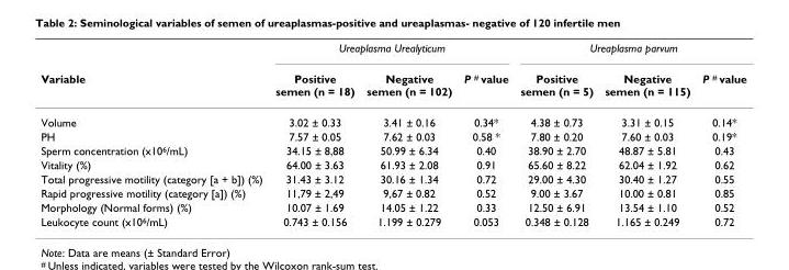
<table><thead><tr><td rowspan="2">Variable</td><td colspan="3">Ureaplasma Urealyticum</td><td colspan="3">Ureaplasma parvum</td></tr><tr><td>Positive semen (n = 18)</td><td>Negative semen (n = 102)</td><td>P <sup>#</sup> value</td><td>Positive semen (n = 5)</td><td>Negative semen (n = 115)</td><td>P <sup>#</sup> value</td></tr></thead><tbody><tr><td>Volume</td><td>3.02 ± 0.33</td><td>3.41 ± 0.16</td><td>0.34*</td><td>4.38 ± 0.73</td><td>3.31 ± 0.15</td><td>0.14*</td></tr><tr><td>PH</td><td>7.57 ± 0.05</td><td>7.62 ± 0.03</td><td>0.58 *</td><td>7.80 ± 0.20</td><td>7.60 ± 0.03</td><td>0.19*</td></tr><tr><td>Sperm concentration (x10<sup>6</sup>/mL)</td><td>34.15 ± 8,88</td><td>50.99 ± 6.34</td><td>0.40</td><td>38.90 ± 2.70</td><td>48.87 ± 5.81</td><td>0.43</td></tr><tr><td>Vitality (%)</td><td>64.00 ± 3.63</td><td>61.93 ± 2.08</td><td>0.91</td><td>65.60 ± 8.22</td><td>62.04 ± 1.92</td><td>0.62</td></tr><tr><td>Total progressive motility (category [a + b]) (%)</td><td>31.43 ± 3.12</td><td>30.16 ± 1.34</td><td>0.72</td><td>29.00 ± 4.30</td><td>30.40 ± 1.27</td><td>0.55</td></tr><tr><td>Rapid progressive motility (category [a]) (%)</td><td>11,79 ± 2,49</td><td>9,67 ± 0.82</td><td>0.52</td><td>9.00 ± 3.67</td><td>10.00 ± 0.81</td><td>0.85</td></tr><tr><td>Morphology (Normal forms) (%)</td><td>10.07 ± 1.69</td><td>14.05 ± 1.22</td><td>0.33</td><td>12.50 ± 6.91</td><td>13.54 ± 1.10</td><td>0.52</td></tr><tr><td>Leukocyte count (x10<sup>6</sup>/mL)</td><td>0.743 ± 0.156</td><td>1.199 ± 0.279</td><td>0.053</td><td>0.348 ± 0.128</td><td>1.165 ± 0.249</td><td>0.72</td></tr></tbody></table>